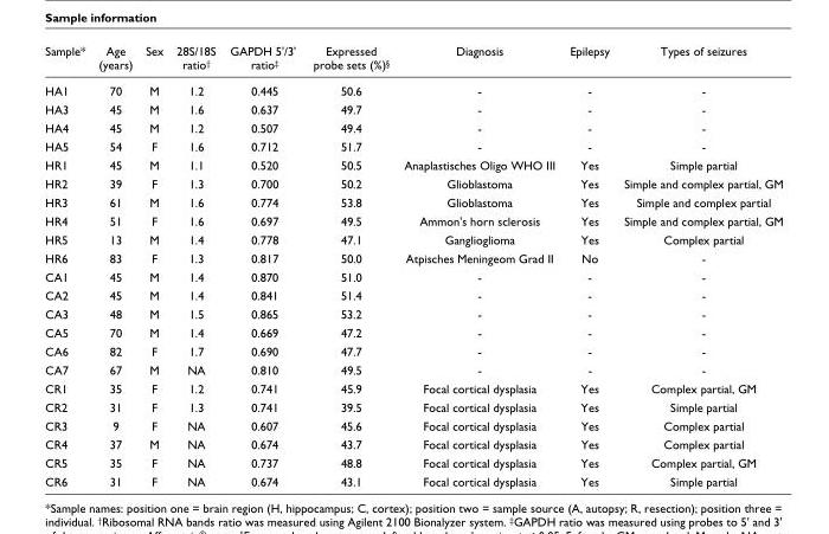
<table><thead><tr><td>Sample*</td><td>Age (years)</td><td>Sex</td><td>28S/18S ratio†</td><td>GAPDH 5&#x27;/3&#x27; ratio‡</td><td>Expressed probe sets (%)§</td><td>Diagnosis</td><td>Epilepsy</td><td>Types of seizures</td></tr></thead><tbody><tr><td>HA1</td><td>70</td><td>M</td><td>1.2</td><td>0.445</td><td>50.6</td><td>-</td><td>-</td><td>-</td></tr><tr><td>HA3</td><td>45</td><td>M</td><td>1.6</td><td>0.637</td><td>49.7</td><td>-</td><td>-</td><td>-</td></tr><tr><td>HA4</td><td>45</td><td>M</td><td>1.2</td><td>0.507</td><td>49.4</td><td>-</td><td>-</td><td>-</td></tr><tr><td>HA5</td><td>54</td><td>F</td><td>1.6</td><td>0.712</td><td>51.7</td><td>-</td><td>-</td><td>-</td></tr><tr><td>HR1</td><td>45</td><td>M</td><td>1.1</td><td>0.520</td><td>50.5</td><td>Anaplastisches Oligo WHO III</td><td>Yes</td><td>Simple partial</td></tr><tr><td>HR2</td><td>39</td><td>F</td><td>1.3</td><td>0.700</td><td>50.2</td><td>Glioblastoma</td><td>Yes</td><td>Simple and complex partial, GM</td></tr><tr><td>HR3</td><td>61</td><td>M</td><td>1.6</td><td>0.774</td><td>53.8</td><td>Glioblastoma</td><td>Yes</td><td>Simple and complex partial</td></tr><tr><td>HR4</td><td>51</td><td>F</td><td>1.6</td><td>0.697</td><td>49.5</td><td>Ammon&#x27;s horn sclerosis</td><td>Yes</td><td>Simple and complex partial, GM</td></tr><tr><td>HR5</td><td>13</td><td>M</td><td>1.4</td><td>0.778</td><td>47.1</td><td>Ganglioglioma</td><td>Yes</td><td>Complex partial</td></tr><tr><td>HR6</td><td>83</td><td>F</td><td>1.3</td><td>0.817</td><td>50.0</td><td>Atpisches Meningeom Grad II</td><td>No</td><td>-</td></tr><tr><td>CA1</td><td>45</td><td>M</td><td>1.4</td><td>0.870</td><td>51.0</td><td>-</td><td>-</td><td>-</td></tr><tr><td>CA2</td><td>45</td><td>M</td><td>1.4</td><td>0.841</td><td>51.4</td><td>-</td><td>-</td><td>-</td></tr><tr><td>CA3</td><td>48</td><td>M</td><td>1.5</td><td>0.865</td><td>53.2</td><td>-</td><td>-</td><td>-</td></tr><tr><td>CA5</td><td>70</td><td>M</td><td>1.4</td><td>0.669</td><td>47.2</td><td>-</td><td>-</td><td>-</td></tr><tr><td>CA6</td><td>82</td><td>F</td><td>1.7</td><td>0.690</td><td>47.7</td><td>-</td><td>-</td><td>-</td></tr><tr><td>CA7</td><td>67</td><td>M</td><td>NA</td><td>0.810</td><td>49.5</td><td>-</td><td>-</td><td>-</td></tr><tr><td>CR1</td><td>35</td><td>F</td><td>1.2</td><td>0.741</td><td>45.9</td><td>Focal cortical dysplasia</td><td>Yes</td><td>Complex partial, GM</td></tr><tr><td>CR2</td><td>31</td><td>F</td><td>1.3</td><td>0.741</td><td>39.5</td><td>Focal cortical dysplasia</td><td>Yes</td><td>Simple partial</td></tr><tr><td>CR3</td><td>9</td><td>F</td><td>NA</td><td>0.607</td><td>45.6</td><td>Focal cortical dysplasia</td><td>Yes</td><td>Complex partial</td></tr><tr><td>CR4</td><td>37</td><td>M</td><td>NA</td><td>0.674</td><td>43.7</td><td>Focal cortical dysplasia</td><td>Yes</td><td>Complex partial</td></tr><tr><td>CR5</td><td>35</td><td>F</td><td>NA</td><td>0.737</td><td>48.8</td><td>Focal cortical dysplasia</td><td>Yes</td><td>Complex partial, GM</td></tr><tr><td>CR6</td><td>31</td><td>F</td><td>NA</td><td>0.674</td><td>43.1</td><td>Focal cortical dysplasia</td><td>Yes</td><td>Simple partial</td></tr></tbody></table>